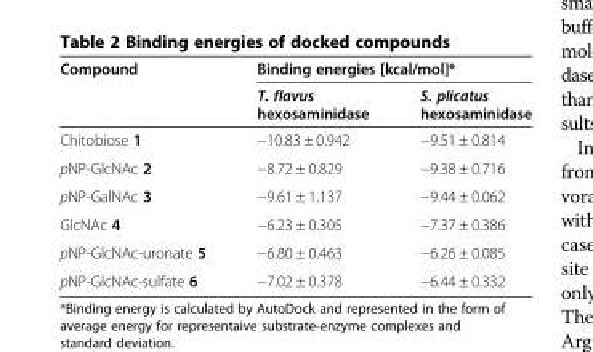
<table><thead><tr><td rowspan="2">Compound</td><td colspan="2">Binding energies [kcal/mol]*</td></tr><tr><td>T. flavus hexosaminidase</td><td>S. plicatus hexosaminidase</td></tr></thead><tbody><tr><td>Chitobiose 1</td><td>−10.83 ± 0.942</td><td>−9.51 ± 0.814</td></tr><tr><td>pNP-GlcNAc 2</td><td>−8.72 ± 0.829</td><td>−9.38 ± 0.716</td></tr><tr><td>pNP-GalNAc 3</td><td>−9.61 ± 1.137</td><td>−9.44 ± 0.062</td></tr><tr><td>GlcNAc 4</td><td>−6.23 ± 0.305</td><td>−7.37 ± 0.386</td></tr><tr><td>pNP-GlcNAc-uronate 5</td><td>−6.80 ± 0.463</td><td>−6.26 ± 0.085</td></tr><tr><td>pNP-GlcNAc-sulfate 6</td><td>−7.02 ± 0.378</td><td>−6.44 ± 0.332</td></tr></tbody></table>